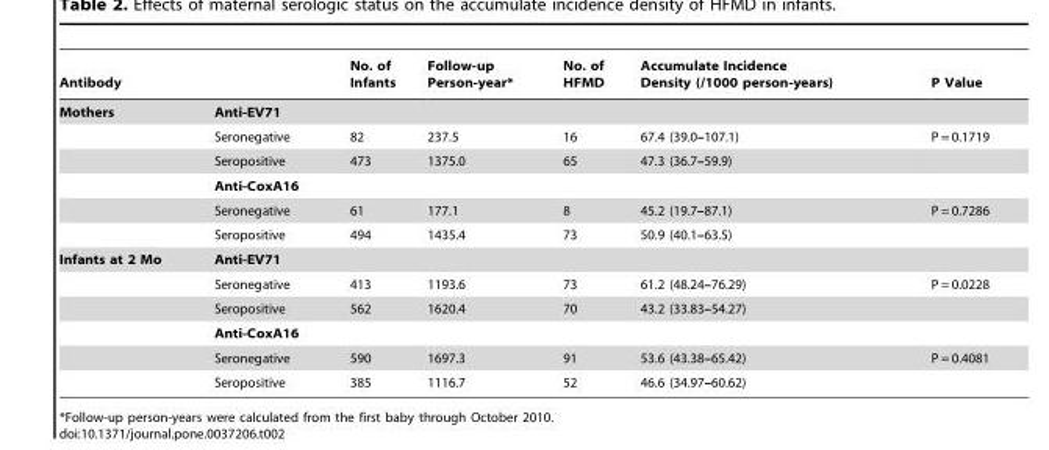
<table><thead><tr><td colspan="2">Antibody</td><td>No. of Infants</td><td>Follow-up Person-year*</td><td>No. of HFMD</td><td>Accumulate Incidence Density (/1000 person-years)</td><td>P Value</td></tr><tr><td rowspan="2">Mothers</td><td colspan="6">Anti-EV71</td></tr><tr><td>Seronegative</td><td>82</td><td>237.5</td><td>16</td><td>67.4 (39.0–107.1)</td><td>P = 0.1719</td></tr></thead><tbody><tr><td></td><td>Seropositive</td><td>473</td><td>1375.0</td><td>65</td><td>47.3 (36.7–59.9)</td><td></td></tr><tr><td></td><td>Anti-CoxA16</td><td></td><td></td><td></td><td></td><td></td></tr><tr><td></td><td>Seronegative</td><td>61</td><td>177.1</td><td>8</td><td>45.2 (19.7–87.1)</td><td>P = 0.7286</td></tr><tr><td></td><td>Seropositive</td><td>494</td><td>1435.4</td><td>73</td><td>50.9 (40.1–63.5)</td><td></td></tr><tr><td rowspan="6">Infants at 2 Mo</td><td colspan="6">Anti-EV71</td></tr><tr><td>Seronegative</td><td>413</td><td>1193.6</td><td>73</td><td>61.2 (48.24–76.29)</td><td>P = 0.0228</td></tr><tr><td>Seropositive</td><td>562</td><td>1620.4</td><td>70</td><td>43.2 (33.83–54.27)</td><td></td></tr><tr><td colspan="6">Anti-CoxA16</td></tr><tr><td>Seronegative</td><td>590</td><td>1697.3</td><td>91</td><td>53.6 (43.38–65.42)</td><td>P = 0.4081</td></tr><tr><td>Seropositive</td><td>385</td><td>1116.7</td><td>52</td><td>46.6 (34.97–60.62)</td><td></td></tr></tbody></table>